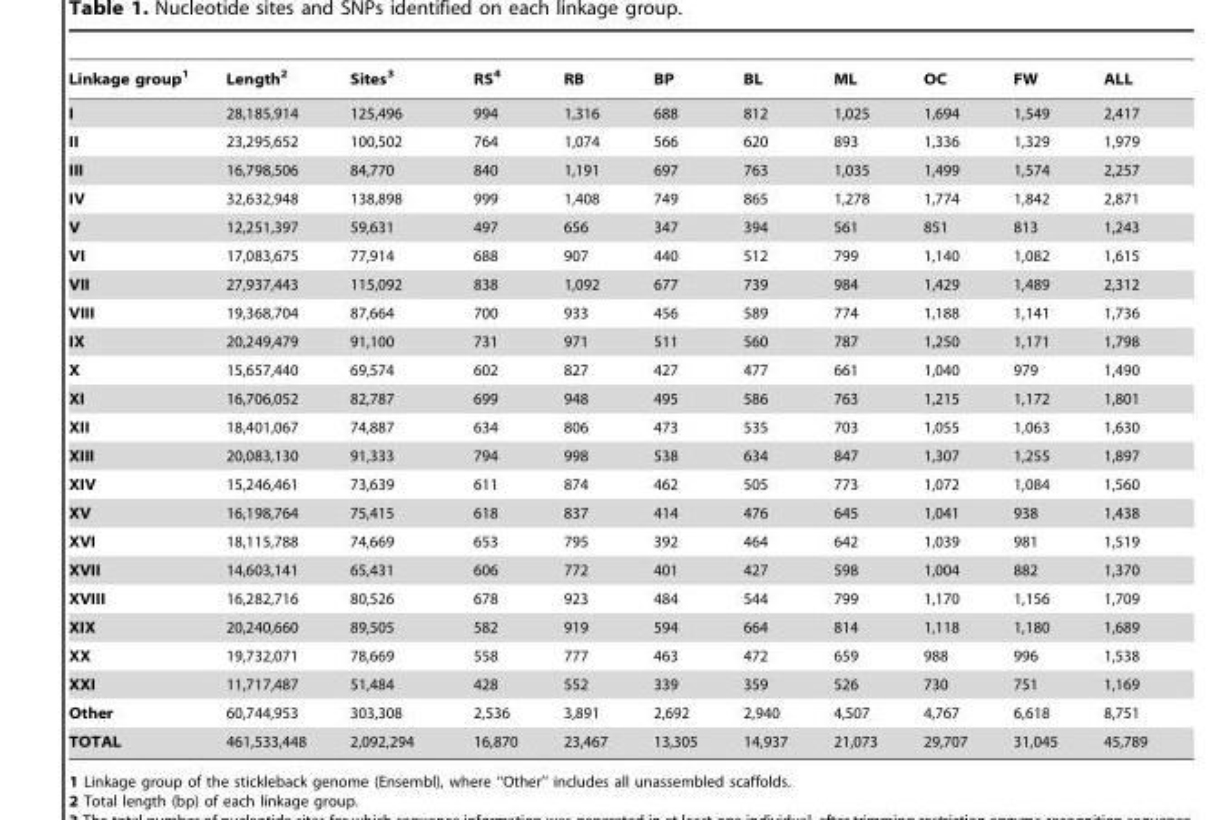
<table><thead><tr><td>Linkage group<sup>1</sup></td><td>Length<sup>2</sup></td><td>Sites<sup>3</sup></td><td>RS<sup>4</sup></td><td>RB</td><td>BP</td><td>BL</td><td>ML</td><td>OC</td><td>FW</td><td>ALL</td></tr></thead><tbody><tr><td>I</td><td>28,185,914</td><td>125,496</td><td>994</td><td>1,316</td><td>688</td><td>812</td><td>1,025</td><td>1,694</td><td>1,549</td><td>2,417</td></tr><tr><td>II</td><td>23,295,652</td><td>100,502</td><td>764</td><td>1,074</td><td>566</td><td>620</td><td>893</td><td>1,336</td><td>1,329</td><td>1,979</td></tr><tr><td>III</td><td>16,798,506</td><td>84,770</td><td>840</td><td>1,191</td><td>697</td><td>763</td><td>1,035</td><td>1,499</td><td>1,574</td><td>2,257</td></tr><tr><td>IV</td><td>32,632,948</td><td>138,898</td><td>999</td><td>1,408</td><td>749</td><td>865</td><td>1,278</td><td>1,774</td><td>1,842</td><td>2,871</td></tr><tr><td>V</td><td>12,251,397</td><td>59,631</td><td>497</td><td>656</td><td>347</td><td>394</td><td>561</td><td>851</td><td>813</td><td>1,243</td></tr><tr><td>VI</td><td>17,083,675</td><td>77,914</td><td>688</td><td>907</td><td>440</td><td>512</td><td>799</td><td>1,140</td><td>1,082</td><td>1,615</td></tr><tr><td>VII</td><td>27,937,443</td><td>115,092</td><td>838</td><td>1,092</td><td>677</td><td>739</td><td>984</td><td>1,429</td><td>1,489</td><td>2,312</td></tr><tr><td>VIII</td><td>19,368,704</td><td>87,664</td><td>700</td><td>933</td><td>456</td><td>589</td><td>774</td><td>1,188</td><td>1,141</td><td>1,736</td></tr><tr><td>IX</td><td>20,249,479</td><td>91,100</td><td>731</td><td>971</td><td>511</td><td>560</td><td>787</td><td>1,250</td><td>1,171</td><td>1,798</td></tr><tr><td>X</td><td>15,657,440</td><td>69,574</td><td>602</td><td>827</td><td>427</td><td>477</td><td>661</td><td>1,040</td><td>979</td><td>1,490</td></tr><tr><td>XI</td><td>16,706,052</td><td>82,787</td><td>699</td><td>948</td><td>495</td><td>586</td><td>763</td><td>1,215</td><td>1,172</td><td>1,801</td></tr><tr><td>XII</td><td>18,401,067</td><td>74,887</td><td>634</td><td>806</td><td>473</td><td>535</td><td>703</td><td>1,055</td><td>1,063</td><td>1,630</td></tr><tr><td>XIII</td><td>20,083,130</td><td>91,333</td><td>794</td><td>998</td><td>538</td><td>634</td><td>847</td><td>1,307</td><td>1,255</td><td>1,897</td></tr><tr><td>XIV</td><td>15,246,461</td><td>73,639</td><td>611</td><td>874</td><td>462</td><td>505</td><td>773</td><td>1,072</td><td>1,084</td><td>1,560</td></tr><tr><td>XV</td><td>16,198,764</td><td>75,415</td><td>618</td><td>837</td><td>414</td><td>476</td><td>645</td><td>1,041</td><td>938</td><td>1,438</td></tr><tr><td>XVI</td><td>18,115,788</td><td>74,669</td><td>653</td><td>795</td><td>392</td><td>464</td><td>642</td><td>1,039</td><td>981</td><td>1,519</td></tr><tr><td>XVII</td><td>14,603,141</td><td>65,431</td><td>606</td><td>772</td><td>401</td><td>427</td><td>598</td><td>1,004</td><td>882</td><td>1,370</td></tr><tr><td>XVIII</td><td>16,282,716</td><td>80,526</td><td>678</td><td>923</td><td>484</td><td>544</td><td>799</td><td>1,170</td><td>1,156</td><td>1,709</td></tr><tr><td>XIX</td><td>20,240,660</td><td>89,505</td><td>582</td><td>919</td><td>594</td><td>664</td><td>814</td><td>1,118</td><td>1,180</td><td>1,689</td></tr><tr><td>XX</td><td>19,732,071</td><td>78,669</td><td>558</td><td>777</td><td>463</td><td>472</td><td>659</td><td>988</td><td>996</td><td>1,538</td></tr><tr><td>XXI</td><td>11,717,487</td><td>51,484</td><td>428</td><td>552</td><td>339</td><td>359</td><td>526</td><td>730</td><td>751</td><td>1,169</td></tr><tr><td>Other</td><td>60,744,953</td><td>303,308</td><td>2,536</td><td>3,891</td><td>2,692</td><td>2,940</td><td>4,507</td><td>4,767</td><td>6,618</td><td>8,751</td></tr><tr><td>TOTAL</td><td>461,533,448</td><td>2,092,294</td><td>16,870</td><td>23,467</td><td>13,305</td><td>14,937</td><td>21,073</td><td>29,707</td><td>31,045</td><td>45,789</td></tr></tbody></table>